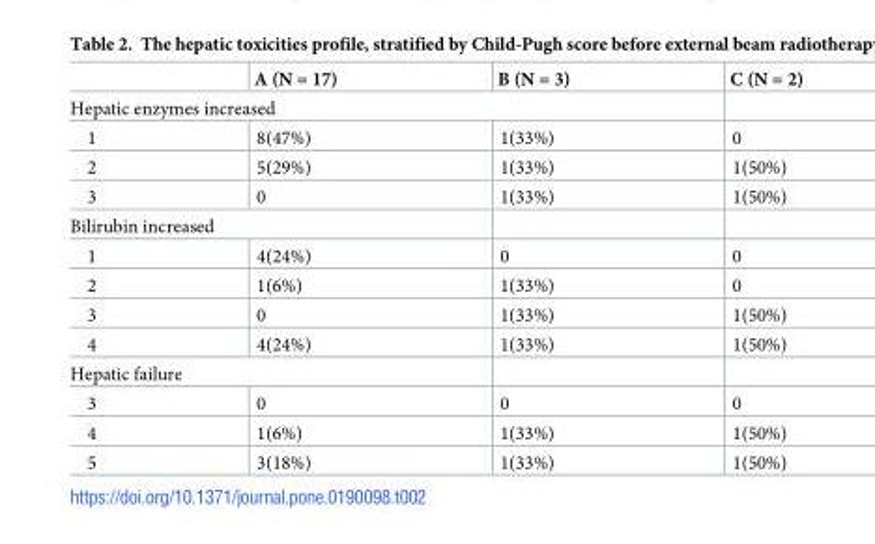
<table><thead><tr><td></td><td>A (N = 17)</td><td>B (N = 3)</td><td>C (N = 2)</td></tr></thead><tbody><tr><td colspan="4">Hepatic enzymes increased</td></tr><tr><td>1</td><td>8(47%)</td><td>1(33%)</td><td>0</td></tr><tr><td>2</td><td>5(29%)</td><td>1(33%)</td><td>1(50%)</td></tr><tr><td>3</td><td>0</td><td>1(33%)</td><td>1(50%)</td></tr><tr><td colspan="4">Bilirubin increased</td></tr><tr><td>1</td><td>4(24%)</td><td>0</td><td>0</td></tr><tr><td>2</td><td>1(6%)</td><td>1(33%)</td><td>0</td></tr><tr><td>3</td><td>0</td><td>1(33%)</td><td>1(50%)</td></tr><tr><td>4</td><td>4(24%)</td><td>1(33%)</td><td>1(50%)</td></tr><tr><td colspan="4">Hepatic failure</td></tr><tr><td>3</td><td>0</td><td>0</td><td>0</td></tr><tr><td>4</td><td>1(6%)</td><td>1(33%)</td><td>1(50%)</td></tr><tr><td>5</td><td>3(18%)</td><td>1(33%)</td><td>1(50%)</td></tr></tbody></table>